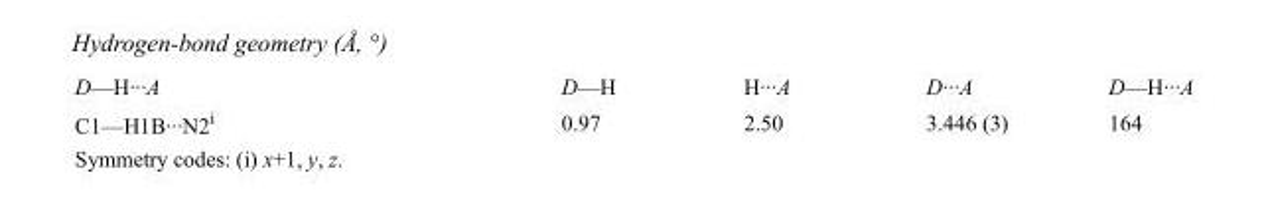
<table><tbody><tr><td>D—H···A</td><td>D—H</td><td>H···A</td><td>D···A</td><td>D—H···A</td></tr><tr><td>C1—H1B···N2<sup>i</sup></td><td>0.97</td><td>2.50</td><td>3.446 (3)</td><td>164</td></tr></tbody></table>